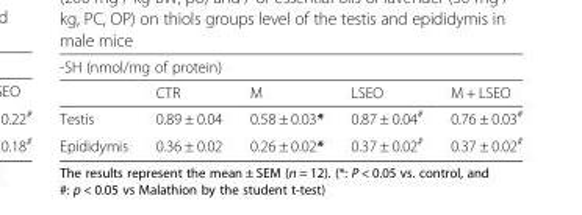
<table><thead><tr><td colspan="5">-SH (nmol/mg of protein)</td></tr><tr><td></td><td>CTR</td><td>M</td><td>LSEO</td><td>M + LSEO</td></tr></thead><tbody><tr><td>Testis</td><td>0.89 ± 0.04</td><td>0.58 ± 0.03*</td><td>0.87 ± 0.04<sup>#</sup></td><td>0.76 ± 0.03<sup>#</sup></td></tr><tr><td>Epididymis</td><td>0.36 ± 0.02</td><td>0.26 ± 0.02*</td><td>0.37 ± 0.02<sup>#</sup></td><td>0.37 ± 0.02<sup>#</sup></td></tr></tbody></table>